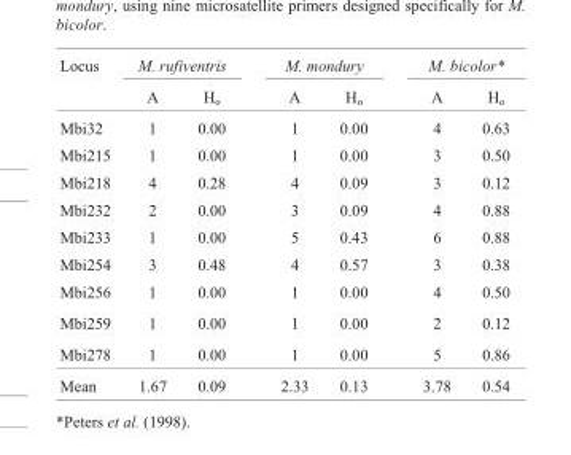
<table><thead><tr><td rowspan="2">Locus</td><td colspan="2">M. rufiventris</td><td colspan="2">M. mondury</td><td colspan="2">M. bicolor*</td></tr><tr><td>A</td><td>H<sub>o</sub></td><td>A</td><td>H<sub>o</sub></td><td>A</td><td>H<sub>o</sub></td></tr></thead><tbody><tr><td>Mbi32</td><td>1</td><td>0.00</td><td>1</td><td>0.00</td><td>4</td><td>0.63</td></tr><tr><td>Mbi215</td><td>1</td><td>0.00</td><td>1</td><td>0.00</td><td>3</td><td>0.50</td></tr><tr><td>Mbi218</td><td>4</td><td>0.28</td><td>4</td><td>0.09</td><td>3</td><td>0.12</td></tr><tr><td>Mbi232</td><td>2</td><td>0.00</td><td>3</td><td>0.09</td><td>4</td><td>0.88</td></tr><tr><td>Mbi233</td><td>1</td><td>0.00</td><td>5</td><td>0.43</td><td>6</td><td>0.88</td></tr><tr><td>Mbi254</td><td>3</td><td>0.48</td><td>4</td><td>0.57</td><td>3</td><td>0.38</td></tr><tr><td>Mbi256</td><td>1</td><td>0.00</td><td>1</td><td>0.00</td><td>4</td><td>0.50</td></tr><tr><td>Mbi259</td><td>1</td><td>0.00</td><td>1</td><td>0.00</td><td>2</td><td>0.12</td></tr><tr><td>Mbi278</td><td>1</td><td>0.00</td><td>1</td><td>0.00</td><td>5</td><td>0.86</td></tr><tr><td>Mean</td><td>1.67</td><td>0.09</td><td>2.33</td><td>0.13</td><td>3.78</td><td>0.54</td></tr></tbody></table>